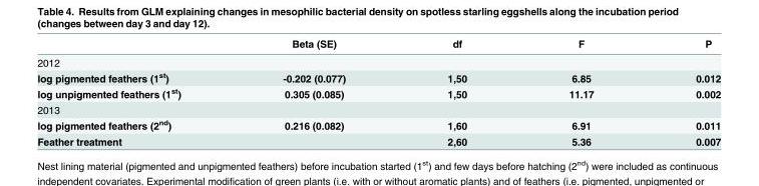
<table><thead><tr><td></td><td>Beta (SE)</td><td>df</td><td>F</td><td>P</td></tr></thead><tbody><tr><td colspan="5">2012</td></tr><tr><td>log pigmented feathers (1<sup>st</sup>)</td><td>-0.202 (0.077)</td><td>1,50</td><td>6.85</td><td>0.012</td></tr><tr><td>log unpigmented feathers (1<sup>st</sup>)</td><td>0.305 (0.085)</td><td>1,50</td><td>11.17</td><td>0.002</td></tr><tr><td colspan="5">2013</td></tr><tr><td>log pigmented feathers (2<sup>nd</sup>)</td><td>0.216 (0.082)</td><td>1,60</td><td>6.91</td><td>0.011</td></tr><tr><td>Feather treatment</td><td></td><td>2,60</td><td>5.36</td><td>0.007</td></tr></tbody></table>